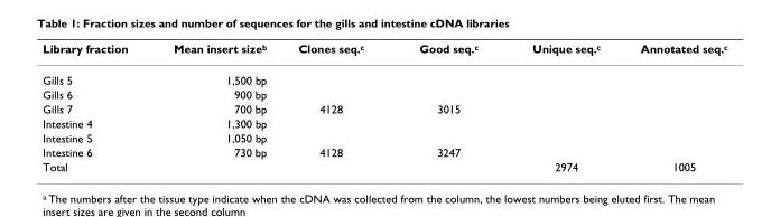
<table><thead><tr><td>Library fraction</td><td>Mean insert size<sup>b</sup></td><td>Clones seq.<sup>c</sup></td><td>Good seq.<sup>c</sup></td><td>Unique seq.<sup>c</sup></td><td>Annotated seq.<sup>c</sup></td></tr></thead><tbody><tr><td>Gills 5</td><td>1,500 bp</td><td></td><td></td><td></td><td></td></tr><tr><td>Gills 6</td><td>900 bp</td><td></td><td></td><td></td><td></td></tr><tr><td>Gills 7</td><td>700 bp</td><td>4128</td><td>3015</td><td></td><td></td></tr><tr><td>Intestine 4</td><td>1,300 bp</td><td></td><td></td><td></td><td></td></tr><tr><td>Intestine 5</td><td>1,050 bp</td><td></td><td></td><td></td><td></td></tr><tr><td>Intestine 6</td><td>730 bp</td><td>4128</td><td>3247</td><td></td><td></td></tr><tr><td>Total</td><td></td><td></td><td></td><td>2974</td><td>1005</td></tr></tbody></table>